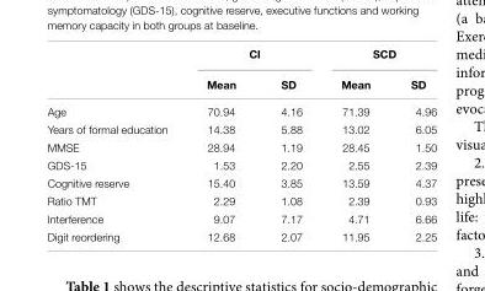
<table><thead><tr><td rowspan="2"></td><td colspan="2">CI</td><td colspan="2">SCD</td></tr><tr><td>Mean</td><td>SD</td><td>Mean</td><td>SD</td></tr></thead><tbody><tr><td>Age</td><td>70.94</td><td>4.16</td><td>71.39</td><td>4.96</td></tr><tr><td>Years of formal education</td><td>14.38</td><td>5.88</td><td>13.02</td><td>6.05</td></tr><tr><td>MMSE</td><td>28.94</td><td>1.19</td><td>28.45</td><td>1.50</td></tr><tr><td>GDS-15</td><td>1.53</td><td>2.20</td><td>2.55</td><td>2.39</td></tr><tr><td>Cognitive reserve</td><td>15.40</td><td>3.85</td><td>13.59</td><td>4.37</td></tr><tr><td>Ratio TMT</td><td>2.29</td><td>1.08</td><td>2.39</td><td>0.93</td></tr><tr><td>Interference</td><td>9.07</td><td>7.17</td><td>4.71</td><td>6.66</td></tr><tr><td>Digit reordering</td><td>12.68</td><td>2.07</td><td>11.95</td><td>2.25</td></tr></tbody></table>